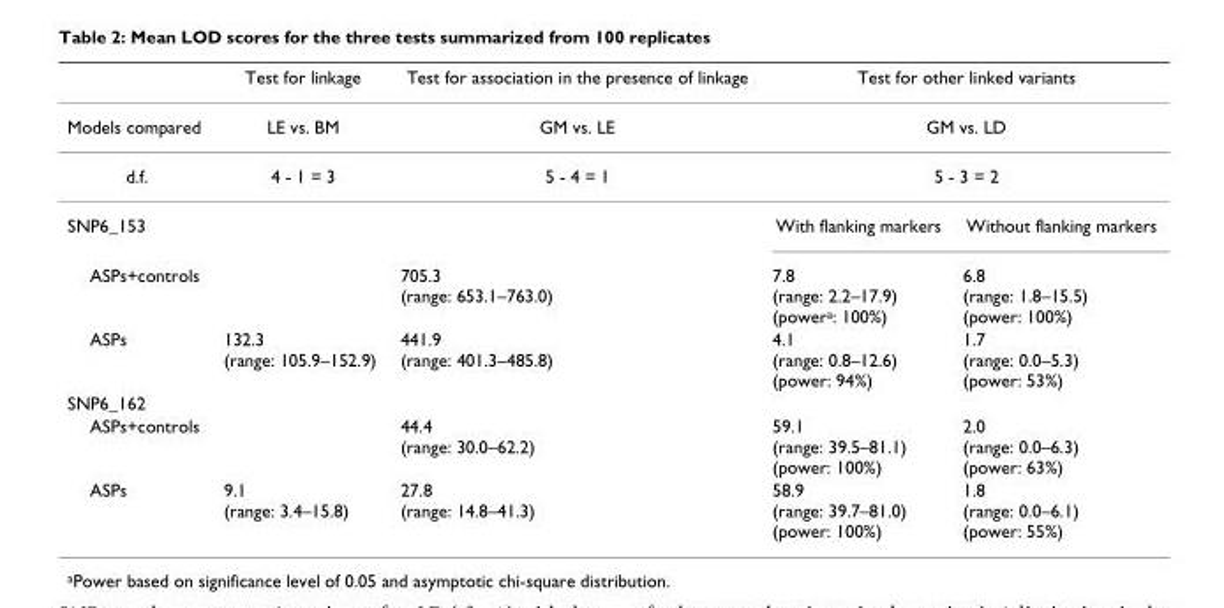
<table><thead><tr><td rowspan="4">Models compared d.f. SNP6_153</td><td rowspan="4">Test for linkage LE vs. BM 4 - 1 = 3</td><td rowspan="4">Test for association in the presence of linkage GM vs. LE 5 - 4 = 1</td><td rowspan="3" colspan="2">Test for other linked variants GM vs. LD 5 - 3 = 2</td></tr><tr></tr><tr></tr><tr><td>With flanking markers</td><td>Without flanking markers</td></tr></thead><tbody><tr><td>ASPs+controls</td><td></td><td>705.3 (range: 653.1–763.0)</td><td>7.8 (range: 2.2–17.9) (power<sup>a</sup>: 100%)</td><td>6.8 (range: 1.8–15.5) (power: 100%)</td></tr><tr><td>ASPs</td><td>132.3 (range: 105.9–152.9)</td><td>441.9 (range: 401.3–485.8)</td><td>4.1 (range: 0.8–12.6) (power: 94%)</td><td>1.7 (range: 0.0–5.3) (power: 53%)</td></tr><tr><td colspan="5">SNP6_162</td></tr><tr><td>ASPs+controls</td><td></td><td>44.4 (range: 30.0–62.2)</td><td>59.1 (range: 39.5–81.1) (power: 100%)</td><td>2.0 (range: 0.0–6.3) (power: 63%)</td></tr><tr><td>ASPs</td><td>9.1 (range: 3.4–15.8)</td><td>27.8 (range: 14.8–41.3)</td><td>58.9 (range: 39.7–81.0) (power: 100%)</td><td>1.8 (range: 0.0–6.1) (power: 55%)</td></tr></tbody></table>